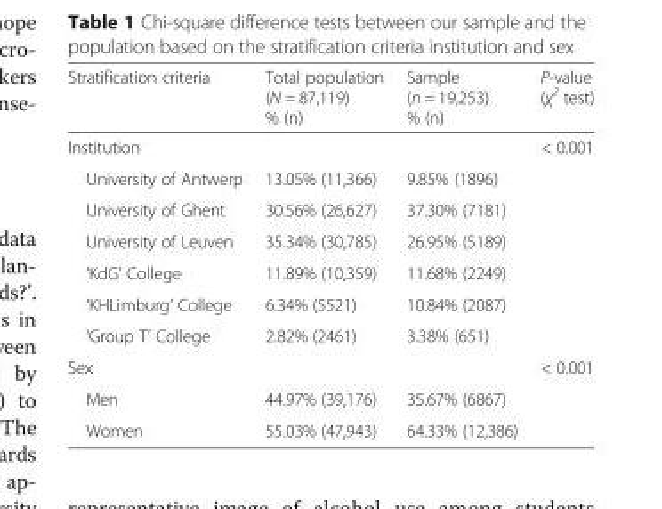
<table><thead><tr><td>Stratification criteria</td><td>Total population (N = 87,119) % (n)</td><td>Sample (n = 19,253) % (n)</td><td>P-value (χ<sup>2</sup> test)</td></tr></thead><tbody><tr><td>Institution</td><td></td><td></td><td>&lt; 0.001</td></tr><tr><td>University of Antwerp</td><td>13.05% (11,366)</td><td>9.85% (1896)</td><td></td></tr><tr><td>University of Ghent</td><td>30.56% (26,627)</td><td>37.30% (7181)</td><td></td></tr><tr><td>University of Leuven</td><td>35.34% (30,785)</td><td>26.95% (5189)</td><td></td></tr><tr><td>‘KdG’ College</td><td>11.89% (10,359)</td><td>11.68% (2249)</td><td></td></tr><tr><td>‘KHLimburg’ College</td><td>6.34% (5521)</td><td>10.84% (2087)</td><td></td></tr><tr><td>‘Group T’ College</td><td>2.82% (2461)</td><td>3.38% (651)</td><td></td></tr><tr><td>Sex</td><td></td><td></td><td>&lt; 0.001</td></tr><tr><td>Men</td><td>44.97% (39,176)</td><td>35.67% (6867)</td><td></td></tr><tr><td>Women</td><td>55.03% (47,943)</td><td>64.33% (12,386)</td><td></td></tr></tbody></table>